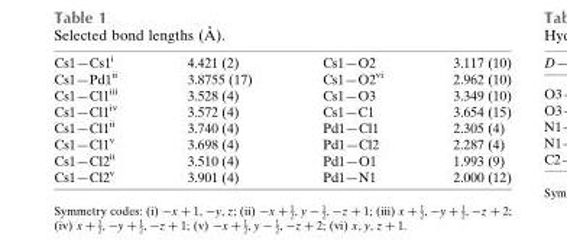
<table><tbody><tr><td>Cs1—Cs1<sup>i</sup></td><td>4.421 (2)</td><td>Cs1—O2</td><td>3.117 (10)</td></tr><tr><td>Cs1—Pd1<sup>ii</sup></td><td>3.8755 (17)</td><td>Cs1—O2<sup>vi</sup></td><td>2.962 (10)</td></tr><tr><td>Cs1—Cl1<sup>iii</sup></td><td>3.528 (4)</td><td>Cs1—O3</td><td>3.349 (10)</td></tr><tr><td>Cs1—Cl1<sup>iv</sup></td><td>3.572 (4)</td><td>Cs1—C1</td><td>3.654 (15)</td></tr><tr><td>Cs1—Cl1<sup>ii</sup></td><td>3.740 (4)</td><td>Pd1—Cl1</td><td>2.305 (4)</td></tr><tr><td>Cs1—Cl1<sup>v</sup></td><td>3.698 (4)</td><td>Pd1—Cl2</td><td>2.287 (4)</td></tr><tr><td>Cs1—Cl2<sup>ii</sup></td><td>3.510 (4)</td><td>Pd1—O1</td><td>1.993 (9)</td></tr><tr><td>Cs1—Cl2<sup>v</sup></td><td>3.901 (4)</td><td>Pd1—N1</td><td>2.000 (12)</td></tr></tbody></table>